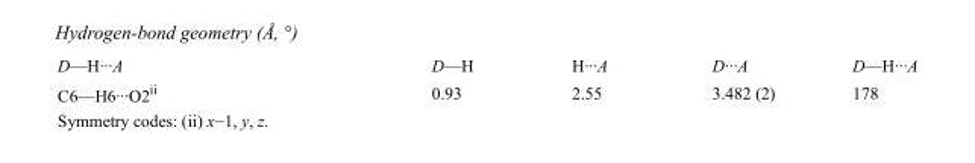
<table><tbody><tr><td>D—H···A</td><td>D—H</td><td>H···A</td><td>D···A</td><td>D—H···A</td></tr><tr><td>C6—H6···O2<sup>ii</sup></td><td>0.93</td><td>2.55</td><td>3.482 (2)</td><td>178</td></tr></tbody></table>